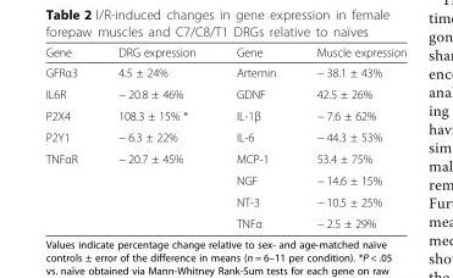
<table><thead><tr><td>Gene</td><td>DRG expression</td><td>Gene</td><td>Muscle expression</td></tr></thead><tbody><tr><td>GFRα3</td><td>4.5 ± 24%</td><td>Artemin</td><td>− 38.1 ± 43%</td></tr><tr><td>IL6R</td><td>− 20.8 ± 46%</td><td>GDNF</td><td>42.5 ± 26%</td></tr><tr><td>P2X4</td><td>108.3 ± 15% *</td><td>IL-1β</td><td>− 7.6 ± 62%</td></tr><tr><td>P2Y1</td><td>− 6.3 ± 22%</td><td>IL-6</td><td>− 44.3 ± 53%</td></tr><tr><td rowspan="4">TNFαR</td><td>− 20.7 ± 45%</td><td>MCP-1</td><td>53.4 ± 75%</td></tr><tr><td></td><td>NGF</td><td>− 14.6 ± 15%</td></tr><tr><td></td><td>NT-3</td><td>− 10.5 ± 25%</td></tr><tr><td></td><td>TNFα</td><td>− 2.5 ± 29%</td></tr></tbody></table>